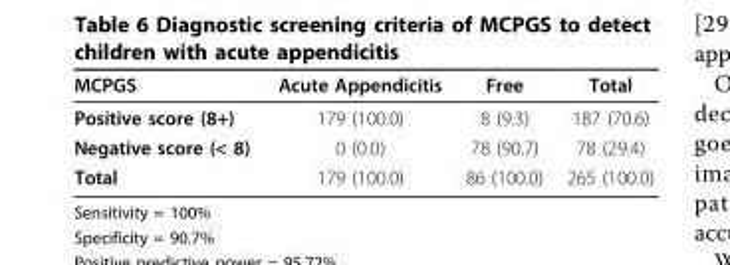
<table><thead><tr><td>MCPGS</td><td>Acute Appendicitis</td><td>Free</td><td>Total</td></tr></thead><tbody><tr><td>Positive score (8+)</td><td>179 (100.0)</td><td>8 (9.3)</td><td>187 (70.6)</td></tr><tr><td>Negative score (&lt; 8)</td><td>0 (0.0)</td><td>78 (90.7)</td><td>78 (29.4)</td></tr><tr><td>Total</td><td>179 (100.0)</td><td>86 (100.0)</td><td>265 (100.0)</td></tr></tbody></table>